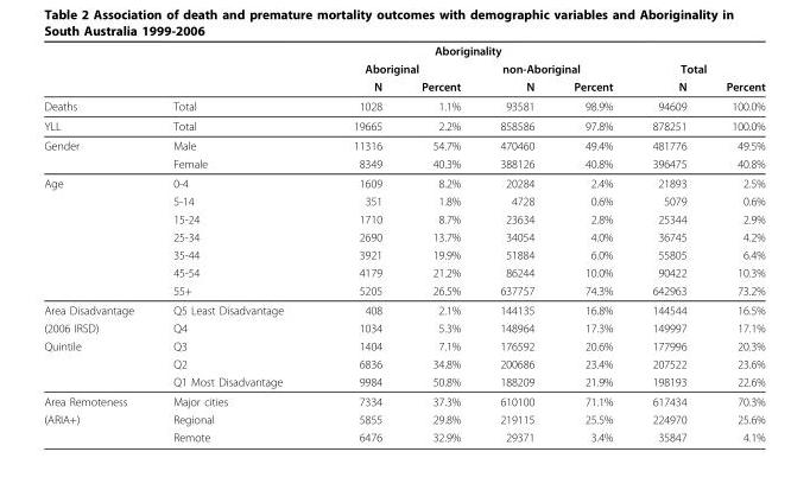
<table><thead><tr><td rowspan="3"></td><td rowspan="3"></td><td colspan="4">Aboriginality</td><td></td><td></td></tr><tr><td colspan="2">Aboriginal</td><td colspan="2">non-Aboriginal</td><td colspan="2">Total</td></tr><tr><td>N</td><td>Percent</td><td>N</td><td>Percent</td><td>N</td><td>Percent</td></tr></thead><tbody><tr><td>Deaths</td><td>Total</td><td>1028</td><td>1.1%</td><td>93581</td><td>98.9%</td><td>94609</td><td>100.0%</td></tr><tr><td>YLL</td><td>Total</td><td>19665</td><td>2.2%</td><td>858586</td><td>97.8%</td><td>878251</td><td>100.0%</td></tr><tr><td rowspan="2">Gender</td><td>Male</td><td>11316</td><td>54.7%</td><td>470460</td><td>49.4%</td><td>481776</td><td>49.5%</td></tr><tr><td>Female</td><td>8349</td><td>40.3%</td><td>388126</td><td>40.8%</td><td>396475</td><td>40.8%</td></tr><tr><td rowspan="7">Age</td><td>0-4</td><td>1609</td><td>8.2%</td><td>20284</td><td>2.4%</td><td>21893</td><td>2.5%</td></tr><tr><td>5-14</td><td>351</td><td>1.8%</td><td>4728</td><td>0.6%</td><td>5079</td><td>0.6%</td></tr><tr><td>15-24</td><td>1710</td><td>8.7%</td><td>23634</td><td>2.8%</td><td>25344</td><td>2.9%</td></tr><tr><td>25-34</td><td>2690</td><td>13.7%</td><td>34054</td><td>4.0%</td><td>36745</td><td>4.2%</td></tr><tr><td>35-44</td><td>3921</td><td>19.9%</td><td>51884</td><td>6.0%</td><td>55805</td><td>6.4%</td></tr><tr><td>45-54</td><td>4179</td><td>21.2%</td><td>86244</td><td>10.0%</td><td>90422</td><td>10.3%</td></tr><tr><td>55+</td><td>5205</td><td>26.5%</td><td>637757</td><td>74.3%</td><td>642963</td><td>73.2%</td></tr><tr><td>Area Disadvantage</td><td>Q5 Least Disadvantage</td><td>408</td><td>2.1%</td><td>144135</td><td>16.8%</td><td>144544</td><td>16.5%</td></tr><tr><td>(2006 IRSD)</td><td>Q4</td><td>1034</td><td>5.3%</td><td>148964</td><td>17.3%</td><td>149997</td><td>17.1%</td></tr><tr><td rowspan="3">Quintile</td><td>Q3</td><td>1404</td><td>7.1%</td><td>176592</td><td>20.6%</td><td>177996</td><td>20.3%</td></tr><tr><td>Q2</td><td>6836</td><td>34.8%</td><td>200686</td><td>23.4%</td><td>207522</td><td>23.6%</td></tr><tr><td>Q1 Most Disadvantage</td><td>9984</td><td>50.8%</td><td>188209</td><td>21.9%</td><td>198193</td><td>22.6%</td></tr><tr><td>Area Remoteness</td><td>Major cities</td><td>7334</td><td>37.3%</td><td>610100</td><td>71.1%</td><td>617434</td><td>70.3%</td></tr><tr><td rowspan="2">(ARIA+)</td><td>Regional</td><td>5855</td><td>29.8%</td><td>219115</td><td>25.5%</td><td>224970</td><td>25.6%</td></tr><tr><td>Remote</td><td>6476</td><td>32.9%</td><td>29371</td><td>3.4%</td><td>35847</td><td>4.1%</td></tr></tbody></table>